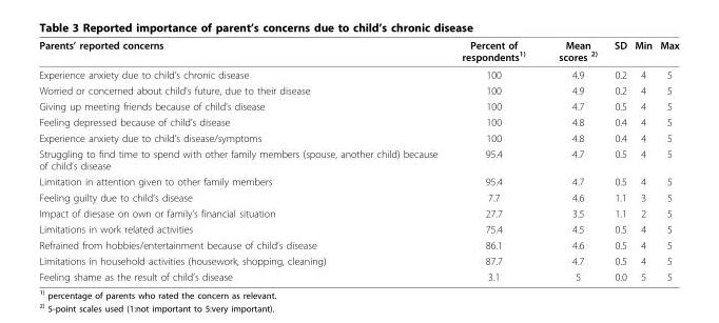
<table><thead><tr><td>Parents’ reported concerns</td><td>Percent of respondents<sup>1)</sup></td><td>Mean scores <sup>2)</sup></td><td>SD</td><td>Min</td><td>Max</td></tr></thead><tbody><tr><td>Experience anxiety due to child’s chronic disease</td><td>100</td><td>4.9</td><td>0.2</td><td>4</td><td>5</td></tr><tr><td>Worried or concerned about child’s future, due to their disease</td><td>100</td><td>4.9</td><td>0.2</td><td>4</td><td>5</td></tr><tr><td>Giving up meeting friends because of child’s disease</td><td>100</td><td>4.7</td><td>0.5</td><td>4</td><td>5</td></tr><tr><td>Feeling depressed because of child’s disease</td><td>100</td><td>4.8</td><td>0.4</td><td>4</td><td>5</td></tr><tr><td>Experience anxiety due to child’s disease/symptoms</td><td>100</td><td>4.8</td><td>0.4</td><td>4</td><td>5</td></tr><tr><td>Struggling to find time to spend with other family members (spouse, another child) because of child’s disease</td><td>95.4</td><td>4.7</td><td>0.5</td><td>4</td><td>5</td></tr><tr><td>Limitation in attention given to other family members</td><td>95.4</td><td>4.7</td><td>0.5</td><td>4</td><td>5</td></tr><tr><td>Feeling guilty due to child’s disease</td><td>7.7</td><td>4.6</td><td>1.1</td><td>3</td><td>5</td></tr><tr><td>Impact of diesase on own or family’s financial situation</td><td>27.7</td><td>3.5</td><td>1.1</td><td>2</td><td>5</td></tr><tr><td>Limitations in work related activities</td><td>75.4</td><td>4.5</td><td>0.5</td><td>4</td><td>5</td></tr><tr><td>Refrained from hobbies/entertainment because of child’s disease</td><td>86.1</td><td>4.6</td><td>0.5</td><td>4</td><td>5</td></tr><tr><td>Limitations in household activities (housework, shopping, cleaning)</td><td>87.7</td><td>4.7</td><td>0.5</td><td>4</td><td>5</td></tr><tr><td>Feeling shame as the result of child’s disease</td><td>3.1</td><td>5</td><td>0.0</td><td>5</td><td>5</td></tr></tbody></table>